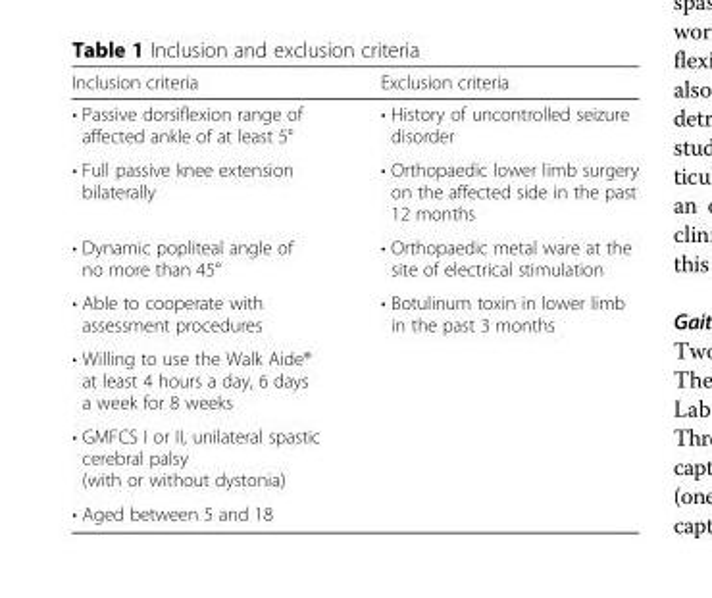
<table><thead><tr><td>Inclusion criteria</td><td>Exclusion criteria</td></tr></thead><tbody><tr><td>• Passive dorsiflexion range of affected ankle of at least 5°</td><td>• History of uncontrolled seizure disorder</td></tr><tr><td>• Full passive knee extension bilaterally</td><td>• Orthopaedic lower limb surgery on the affected side in the past 12 months</td></tr><tr><td>• Dynamic popliteal angle of no more than 45°</td><td>• Orthopaedic metal ware at the site of electrical stimulation</td></tr><tr><td>• Able to cooperate with assessment procedures</td><td rowspan="4">• Botulinum toxin in lower limb in the past 3 months</td></tr><tr><td>• Willing to use the Walk Aide® at least 4 hours a day, 6 days a week for 8 weeks</td></tr><tr><td>• GMFCS I or II, unilateral spastic cerebral palsy (with or without dystonia)</td></tr><tr><td>• Aged between 5 and 18</td></tr></tbody></table>